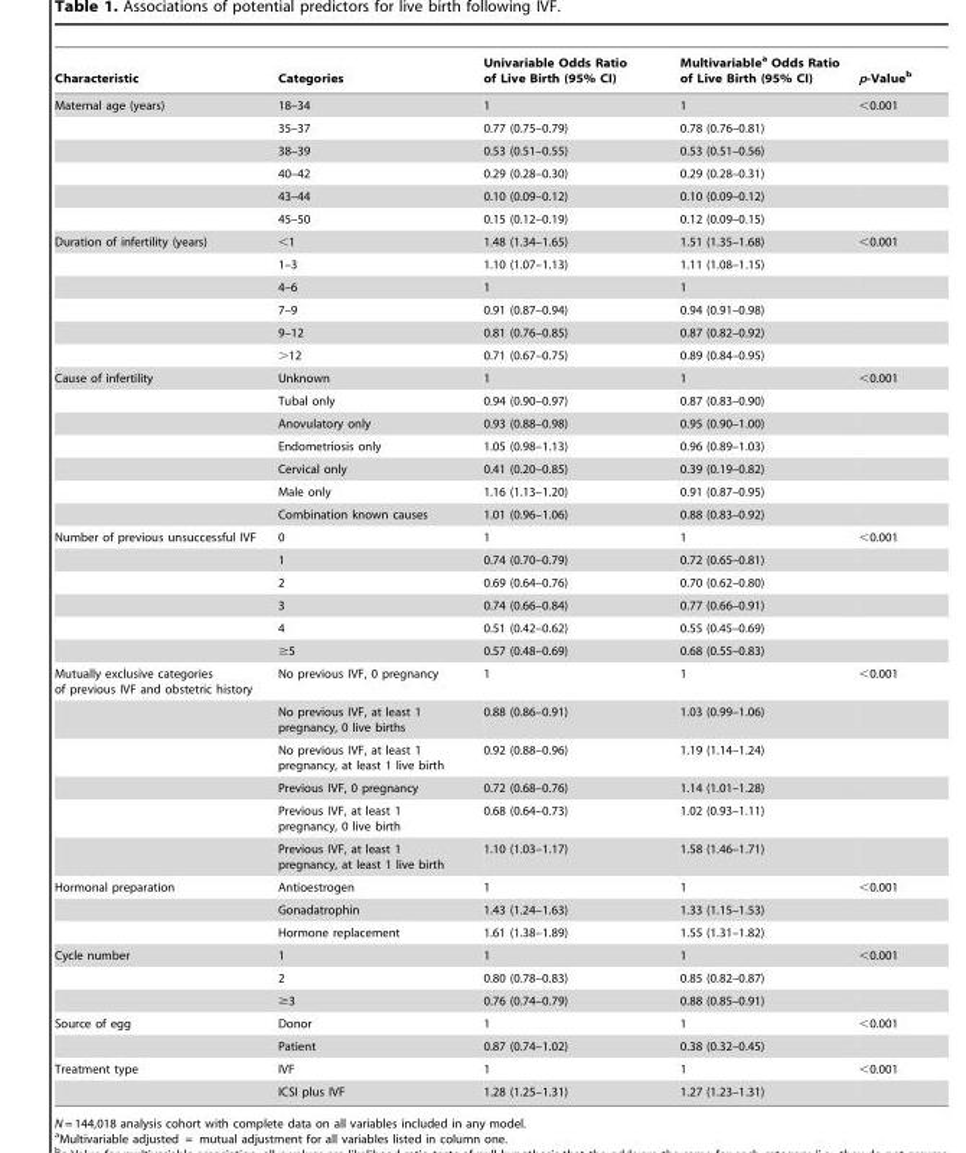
<table><thead><tr><td>Characteristic</td><td>Categories</td><td>Univariable Odds Ratio of Live Birth (95% CI)</td><td>Multivariable<sup>a</sup> Odds Ratio of Live Birth (95% CI)</td><td>p-Value<sup>b</sup></td></tr></thead><tbody><tr><td rowspan="6">Maternal age (years)</td><td>18–34</td><td>1</td><td>1</td><td>&lt;0.001</td></tr><tr><td>35–37</td><td>0.77 (0.75–0.79)</td><td>0.78 (0.76–0.81)</td><td></td></tr><tr><td>38–39</td><td>0.53 (0.51–0.55)</td><td>0.53 (0.51–0.56)</td><td></td></tr><tr><td>40–42</td><td>0.29 (0.28–0.30)</td><td>0.29 (0.28–0.31)</td><td></td></tr><tr><td>43–44</td><td>0.10 (0.09–0.12)</td><td>0.10 (0.09–0.12)</td><td></td></tr><tr><td>45–50</td><td>0.15 (0.12–0.19)</td><td>0.12 (0.09–0.15)</td><td></td></tr><tr><td rowspan="6">Duration of infertility (years)</td><td>&lt;1</td><td>1.48 (1.34–1.65)</td><td>1.51 (1.35–1.68)</td><td>&lt;0.001</td></tr><tr><td>1–3</td><td>1.10 (1.07–1.13)</td><td>1.11 (1.08–1.15)</td><td></td></tr><tr><td>4–6</td><td>1</td><td>1</td><td></td></tr><tr><td>7–9</td><td>0.91 (0.87–0.94)</td><td>0.94 (0.91–0.98)</td><td></td></tr><tr><td>9–12</td><td>0.81 (0.76–0.85)</td><td>0.87 (0.82–0.92)</td><td></td></tr><tr><td>&gt;12</td><td>0.71 (0.67–0.75)</td><td>0.89 (0.84–0.95)</td><td></td></tr><tr><td rowspan="7">Cause of infertility</td><td>Unknown</td><td>1</td><td>1</td><td>&lt;0.001</td></tr><tr><td>Tubal only</td><td>0.94 (0.90–0.97)</td><td>0.87 (0.83–0.90)</td><td></td></tr><tr><td>Anovulatory only</td><td>0.93 (0.88–0.98)</td><td>0.95 (0.90–1.00)</td><td></td></tr><tr><td>Endometriosis only</td><td>1.05 (0.98–1.13)</td><td>0.96 (0.89–1.03)</td><td></td></tr><tr><td>Cervical only</td><td>0.41 (0.20–0.85)</td><td>0.39 (0.19–0.82)</td><td></td></tr><tr><td>Male only</td><td>1.16 (1.13–1.20)</td><td>0.91 (0.87–0.95)</td><td></td></tr><tr><td>Combination known causes</td><td>1.01 (0.96–1.06)</td><td>0.88 (0.83–0.92)</td><td></td></tr><tr><td rowspan="6">Number of previous unsuccessful IVF</td><td>0</td><td>1</td><td>1</td><td>&lt;0.001</td></tr><tr><td>1</td><td>0.74 (0.70–0.79)</td><td>0.72 (0.65–0.81)</td><td></td></tr><tr><td>2</td><td>0.69 (0.64–0.76)</td><td>0.70 (0.62–0.80)</td><td></td></tr><tr><td>3</td><td>0.74 (0.66–0.84)</td><td>0.77 (0.66–0.91)</td><td></td></tr><tr><td>4</td><td>0.51 (0.42–0.62)</td><td>0.55 (0.45–0.69)</td><td></td></tr><tr><td>≥5</td><td>0.57 (0.48–0.69)</td><td>0.68 (0.55–0.83)</td><td></td></tr><tr><td rowspan="6">Mutually exclusive categories of previous IVF and obstetric history</td><td>No previous IVF, 0 pregnancy</td><td>1</td><td>1</td><td>&lt;0.001</td></tr><tr><td>No previous IVF, at least 1 pregnancy, 0 live births</td><td>0.88 (0.86–0.91)</td><td>1.03 (0.99–1.06)</td><td></td></tr><tr><td>No previous IVF, at least 1 pregnancy, at least 1 live birth</td><td>0.92 (0.88–0.96)</td><td>1.19 (1.14–1.24)</td><td></td></tr><tr><td>Previous IVF, 0 pregnancy</td><td>0.72 (0.68–0.76)</td><td>1.14 (1.01–1.28)</td><td></td></tr><tr><td>Previous IVF, at least 1 pregnancy, 0 live birth</td><td>0.68 (0.64–0.73)</td><td>1.02 (0.93–1.11)</td><td></td></tr><tr><td>Previous IVF, at least 1 pregnancy, at least 1 live birth</td><td>1.10 (1.03–1.17)</td><td>1.58 (1.46–1.71)</td><td></td></tr><tr><td rowspan="3">Hormonal preparation</td><td>Antioestrogen</td><td>1</td><td>1</td><td>&lt;0.001</td></tr><tr><td>Gonadatrophin</td><td>1.43 (1.24–1.63)</td><td>1.33 (1.15–1.53)</td><td></td></tr><tr><td>Hormone replacement</td><td>1.61 (1.38–1.89)</td><td>1.55 (1.31–1.82)</td><td></td></tr><tr><td rowspan="3">Cycle number</td><td>1</td><td>1</td><td>1</td><td>&lt;0.001</td></tr><tr><td>2</td><td>0.80 (0.78–0.83)</td><td>0.85 (0.82–0.87)</td><td></td></tr><tr><td>≥3</td><td>0.76 (0.74–0.79)</td><td>0.88 (0.85–0.91)</td><td></td></tr><tr><td rowspan="2">Source of egg</td><td>Donor</td><td>1</td><td>1</td><td>&lt;0.001</td></tr><tr><td>Patient</td><td>0.87 (0.74–1.02)</td><td>0.38 (0.32–0.45)</td><td></td></tr><tr><td rowspan="2">Treatment type</td><td>IVF</td><td>1</td><td>1</td><td>&lt;0.001</td></tr><tr><td>ICSI plus IVF</td><td>1.28 (1.25–1.31)</td><td>1.27 (1.23–1.31)</td><td></td></tr></tbody></table>